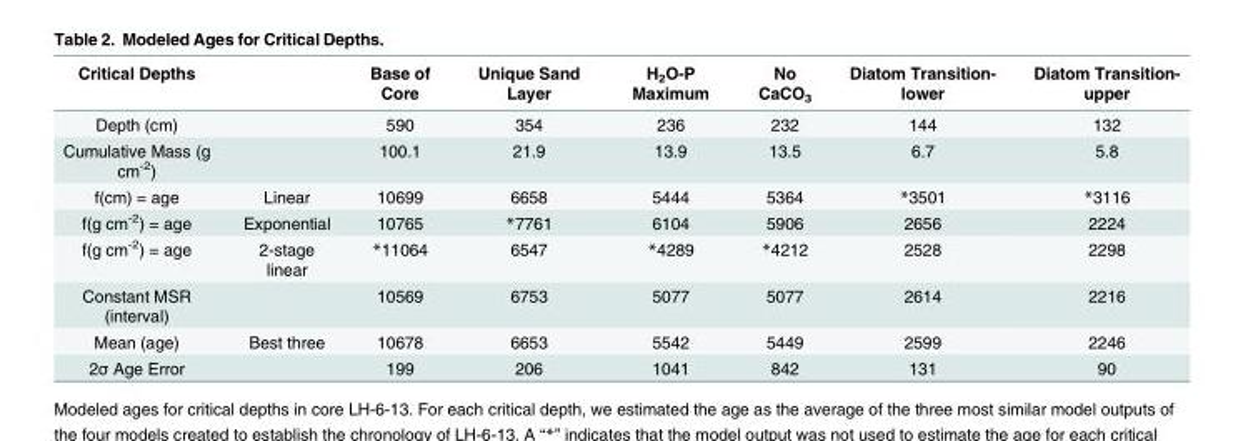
<table><thead><tr><td>Critical Depths</td><td></td><td>Base of Core</td><td>Unique Sand Layer</td><td>H<sub>2</sub>O-P Maximum</td><td>No CaCO<sub>3</sub></td><td>Diatom Transition- lower</td><td>Diatom Transition- upper</td></tr></thead><tbody><tr><td>Depth (cm)</td><td></td><td>590</td><td>354</td><td>236</td><td>232</td><td>144</td><td>132</td></tr><tr><td>Cumulative Mass (g cm<sup>-2</sup>)</td><td></td><td>100.1</td><td>21.9</td><td>13.9</td><td>13.5</td><td>6.7</td><td>5.8</td></tr><tr><td>f(cm) = age</td><td>Linear</td><td>10699</td><td>6658</td><td>5444</td><td>5364</td><td>*3501</td><td>*3116</td></tr><tr><td>f(g cm<sup>-2</sup>) = age</td><td>Exponential</td><td>10765</td><td>*7761</td><td>6104</td><td>5906</td><td>2656</td><td>2224</td></tr><tr><td>f(g cm<sup>-2</sup>) = age</td><td>2-stage linear</td><td>*11064</td><td>6547</td><td>*4289</td><td>*4212</td><td>2528</td><td>2298</td></tr><tr><td>Constant MSR (interval)</td><td></td><td>10569</td><td>6753</td><td>5077</td><td>5077</td><td>2614</td><td>2216</td></tr><tr><td>Mean (age)</td><td>Best three</td><td>10678</td><td>6653</td><td>5542</td><td>5449</td><td>2599</td><td>2246</td></tr><tr><td>2σ Age Error</td><td></td><td>199</td><td>206</td><td>1041</td><td>842</td><td>131</td><td>90</td></tr></tbody></table>